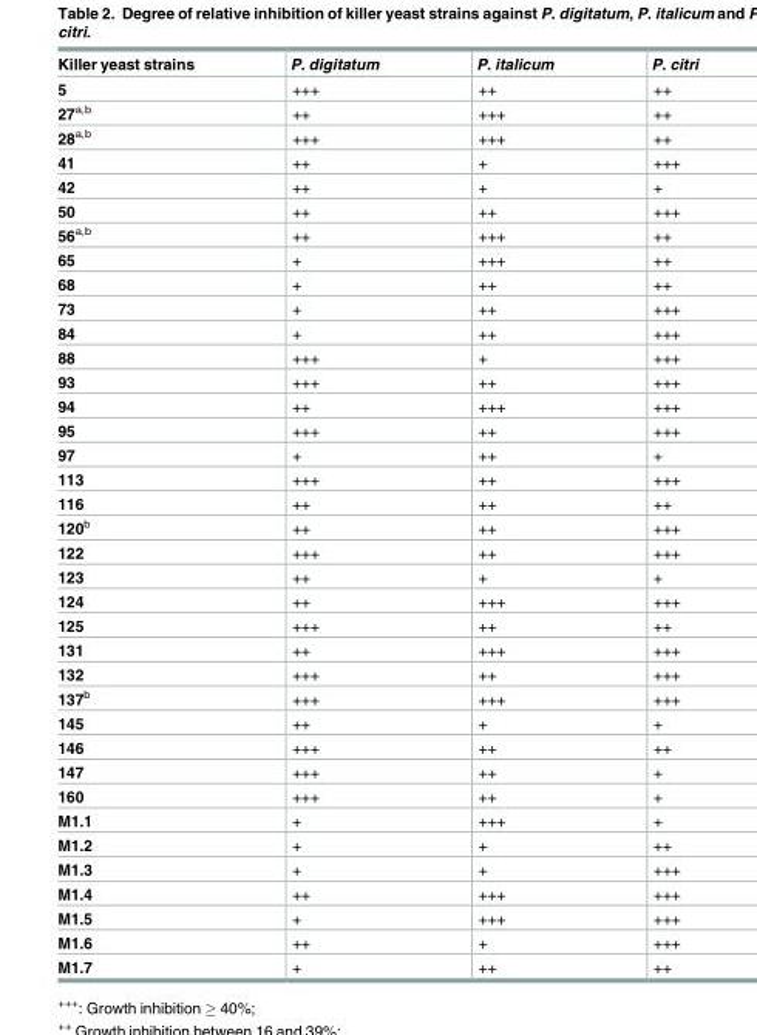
<table><thead><tr><td>Killer yeast strains</td><td>P. digitatum</td><td>P. italicum</td><td>P. citri</td></tr></thead><tbody><tr><td>5</td><td>+++</td><td>++</td><td>++</td></tr><tr><td>27<sup>a,b</sup></td><td>++</td><td>+++</td><td>++</td></tr><tr><td>28<sup>a,b</sup></td><td>+++</td><td>+++</td><td>++</td></tr><tr><td>41</td><td>++</td><td>+</td><td>+++</td></tr><tr><td>42</td><td>++</td><td>+</td><td>+</td></tr><tr><td>50</td><td>++</td><td>++</td><td>+++</td></tr><tr><td>56<sup>a,b</sup></td><td>++</td><td>+++</td><td>++</td></tr><tr><td>65</td><td>+</td><td>+++</td><td>++</td></tr><tr><td>68</td><td>+</td><td>++</td><td>++</td></tr><tr><td>73</td><td>+</td><td>++</td><td>+++</td></tr><tr><td>84</td><td>+</td><td>++</td><td>+++</td></tr><tr><td>88</td><td>+++</td><td>+</td><td>+++</td></tr><tr><td>93</td><td>+++</td><td>++</td><td>+++</td></tr><tr><td>94</td><td>++</td><td>+++</td><td>+++</td></tr><tr><td>95</td><td>+++</td><td>++</td><td>+++</td></tr><tr><td>97</td><td>+</td><td>++</td><td>+</td></tr><tr><td>113</td><td>+++</td><td>++</td><td>+++</td></tr><tr><td>116</td><td>++</td><td>++</td><td>++</td></tr><tr><td>120<sup>b</sup></td><td>++</td><td>++</td><td>+++</td></tr><tr><td>122</td><td>+++</td><td>++</td><td>+++</td></tr><tr><td>123</td><td>++</td><td>+</td><td>+</td></tr><tr><td>124</td><td>++</td><td>+++</td><td>+++</td></tr><tr><td>125</td><td>+++</td><td>++</td><td>++</td></tr><tr><td>131</td><td>++</td><td>+++</td><td>+++</td></tr><tr><td>132</td><td>+++</td><td>++</td><td>+++</td></tr><tr><td>137<sup>b</sup></td><td>+++</td><td>+++</td><td>+++</td></tr><tr><td>145</td><td>++</td><td>+</td><td>+</td></tr><tr><td>146</td><td>+++</td><td>++</td><td>++</td></tr><tr><td>147</td><td>+++</td><td>++</td><td>+</td></tr><tr><td>160</td><td>+++</td><td>++</td><td>+</td></tr><tr><td>M1.1</td><td>+</td><td>+++</td><td>+</td></tr><tr><td>M1.2</td><td>+</td><td>+</td><td>++</td></tr><tr><td>M1.3</td><td>+</td><td>+</td><td>+++</td></tr><tr><td>M1.4</td><td>++</td><td>+++</td><td>+++</td></tr><tr><td>M1.5</td><td>+</td><td>+++</td><td>+++</td></tr><tr><td>M1.6</td><td>++</td><td>+</td><td>+++</td></tr><tr><td>M1.7</td><td>+</td><td>++</td><td>++</td></tr></tbody></table>